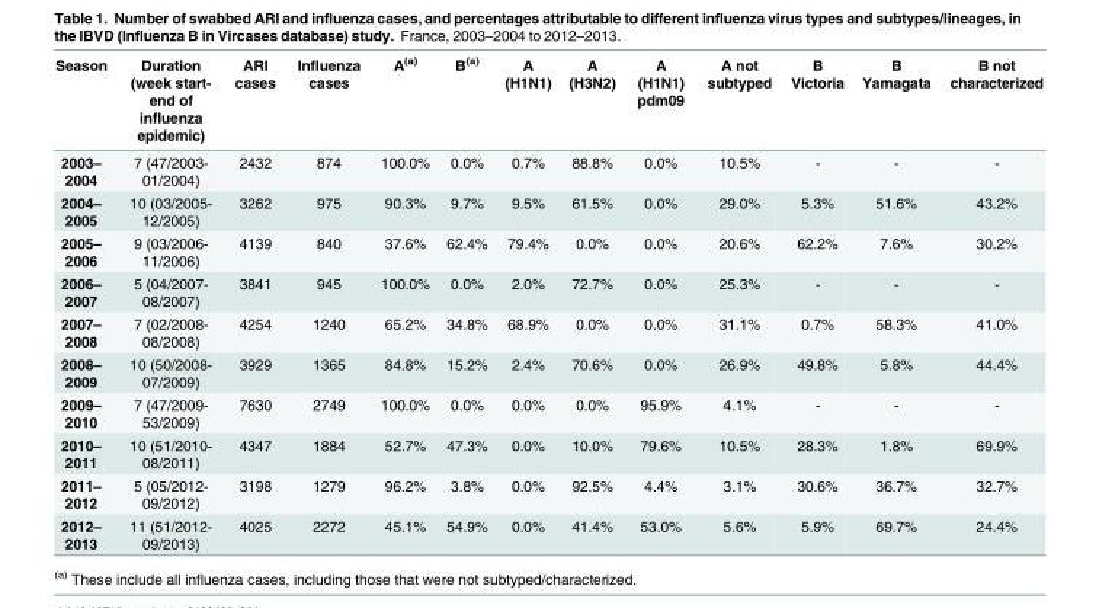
<table><thead><tr><td>Season</td><td>Duration (week start- end of influenza epidemic)</td><td>ARI cases</td><td>Influenza cases</td><td>A<sup>(a)</sup></td><td>B<sup>(a)</sup></td><td>A (H1N1)</td><td>A (H3N2)</td><td>A (H1N1) pdm09</td><td>A not subtyped</td><td>B Victoria</td><td>B Yamagata</td><td>B not characterized</td></tr></thead><tbody><tr><td>2003– 2004</td><td>7 (47/2003- 01/2004)</td><td>2432</td><td>874</td><td>100.0%</td><td>0.0%</td><td>0.7%</td><td>88.8%</td><td>0.0%</td><td>10.5%</td><td>-</td><td>-</td><td>-</td></tr><tr><td>2004– 2005</td><td>10 (03/2005- 12/2005)</td><td>3262</td><td>975</td><td>90.3%</td><td>9.7%</td><td>9.5%</td><td>61.5%</td><td>0.0%</td><td>29.0%</td><td>5.3%</td><td>51.6%</td><td>43.2%</td></tr><tr><td>2005– 2006</td><td>9 (03/2006- 11/2006)</td><td>4139</td><td>840</td><td>37.6%</td><td>62.4%</td><td>79.4%</td><td>0.0%</td><td>0.0%</td><td>20.6%</td><td>62.2%</td><td>7.6%</td><td>30.2%</td></tr><tr><td>2006– 2007</td><td>5 (04/2007- 08/2007)</td><td>3841</td><td>945</td><td>100.0%</td><td>0.0%</td><td>2.0%</td><td>72.7%</td><td>0.0%</td><td>25.3%</td><td>-</td><td>-</td><td>-</td></tr><tr><td>2007– 2008</td><td>7 (02/2008- 08/2008)</td><td>4254</td><td>1240</td><td>65.2%</td><td>34.8%</td><td>68.9%</td><td>0.0%</td><td>0.0%</td><td>31.1%</td><td>0.7%</td><td>58.3%</td><td>41.0%</td></tr><tr><td>2008– 2009</td><td>10 (50/2008- 07/2009)</td><td>3929</td><td>1365</td><td>84.8%</td><td>15.2%</td><td>2.4%</td><td>70.6%</td><td>0.0%</td><td>26.9%</td><td>49.8%</td><td>5.8%</td><td>44.4%</td></tr><tr><td>2009– 2010</td><td>7 (47/2009- 53/2009)</td><td>7630</td><td>2749</td><td>100.0%</td><td>0.0%</td><td>0.0%</td><td>0.0%</td><td>95.9%</td><td>4.1%</td><td>-</td><td>-</td><td>-</td></tr><tr><td>2010– 2011</td><td>10 (51/2010- 08/2011)</td><td>4347</td><td>1884</td><td>52.7%</td><td>47.3%</td><td>0.0%</td><td>10.0%</td><td>79.6%</td><td>10.5%</td><td>28.3%</td><td>1.8%</td><td>69.9%</td></tr><tr><td>2011– 2012</td><td>5 (05/2012- 09/2012)</td><td>3198</td><td>1279</td><td>96.2%</td><td>3.8%</td><td>0.0%</td><td>92.5%</td><td>4.4%</td><td>3.1%</td><td>30.6%</td><td>36.7%</td><td>32.7%</td></tr><tr><td>2012– 2013</td><td>11 (51/2012- 09/2013)</td><td>4025</td><td>2272</td><td>45.1%</td><td>54.9%</td><td>0.0%</td><td>41.4%</td><td>53.0%</td><td>5.6%</td><td>5.9%</td><td>69.7%</td><td>24.4%</td></tr></tbody></table>